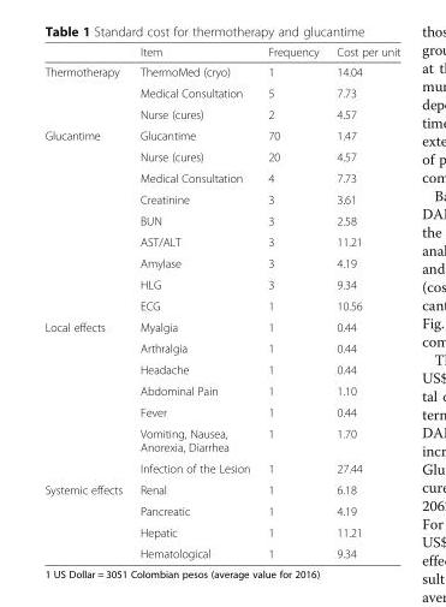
<table><thead><tr><td></td><td>Item</td><td>Frequency</td><td>Cost per unit</td></tr></thead><tbody><tr><td rowspan="3">Thermotherapy</td><td>ThermoMed (cryo)</td><td>1</td><td>14.04</td></tr><tr><td>Medical Consultation</td><td>5</td><td>7.73</td></tr><tr><td>Nurse (cures)</td><td>2</td><td>4.57</td></tr><tr><td rowspan="9">Glucantime</td><td>Glucantime</td><td>70</td><td>1.47</td></tr><tr><td>Nurse (cures)</td><td>20</td><td>4.57</td></tr><tr><td>Medical Consultation</td><td>4</td><td>7.73</td></tr><tr><td>Creatinine</td><td>3</td><td>3.61</td></tr><tr><td>BUN</td><td>3</td><td>2.58</td></tr><tr><td>AST/ALT</td><td>3</td><td>11.21</td></tr><tr><td>Amylase</td><td>3</td><td>4.19</td></tr><tr><td>HLG</td><td>3</td><td>9.34</td></tr><tr><td>ECG</td><td>1</td><td>10.56</td></tr><tr><td rowspan="7">Local effects</td><td>Myalgia</td><td>1</td><td>0.44</td></tr><tr><td>Arthralgia</td><td>1</td><td>0.44</td></tr><tr><td>Headache</td><td>1</td><td>0.44</td></tr><tr><td>Abdominal Pain</td><td>1</td><td>1.10</td></tr><tr><td>Fever</td><td>1</td><td>0.44</td></tr><tr><td>Vomiting, Nausea, Anorexia, Diarrhea</td><td>1</td><td>1.70</td></tr><tr><td>Infection of the Lesion</td><td>1</td><td>27.44</td></tr><tr><td rowspan="4">Systemic effects</td><td>Renal</td><td>1</td><td>6.18</td></tr><tr><td>Pancreatic</td><td>1</td><td>4.19</td></tr><tr><td>Hepatic</td><td>1</td><td>11.21</td></tr><tr><td>Hematological</td><td>1</td><td>9.34</td></tr></tbody></table>